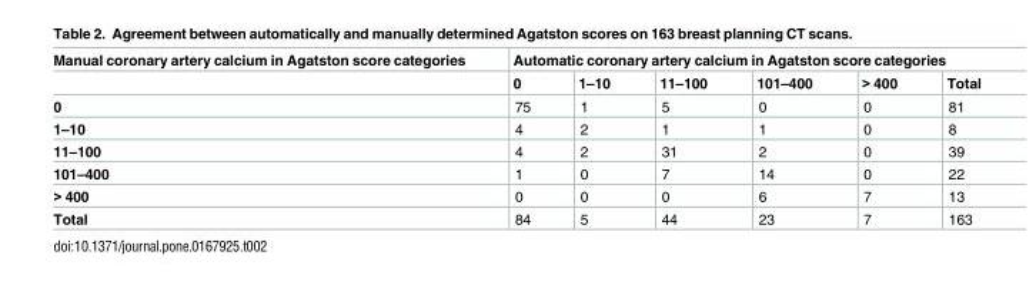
<table><thead><tr><td rowspan="2">Manual coronary artery calcium in Agatston score categories</td><td colspan="6">Automatic coronary artery calcium in Agatston score categories</td></tr><tr><td>0</td><td>1–10</td><td>11–100</td><td>101–400</td><td>&gt; 400</td><td>Total</td></tr></thead><tbody><tr><td>0</td><td>75</td><td>1</td><td>5</td><td>0</td><td>0</td><td>81</td></tr><tr><td>1–10</td><td>4</td><td>2</td><td>1</td><td>1</td><td>0</td><td>8</td></tr><tr><td>11–100</td><td>4</td><td>2</td><td>31</td><td>2</td><td>0</td><td>39</td></tr><tr><td>101–400</td><td>1</td><td>0</td><td>7</td><td>14</td><td>0</td><td>22</td></tr><tr><td>&gt; 400</td><td>0</td><td>0</td><td>0</td><td>6</td><td>7</td><td>13</td></tr><tr><td>Total</td><td>84</td><td>5</td><td>44</td><td>23</td><td>7</td><td>163</td></tr></tbody></table>